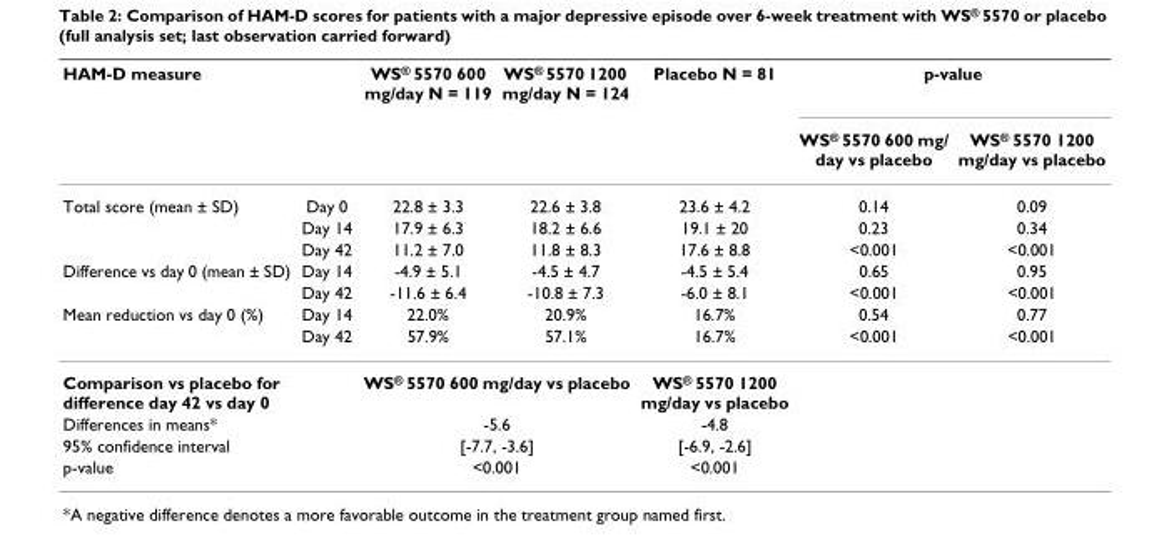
<table><thead><tr><td colspan="2">HAM-D measure</td><td rowspan="2">WS® 5570 600 mg/day N = 119</td><td rowspan="2">WS® 5570 1200 mg/day N = 124</td><td rowspan="2">Placebo N = 81</td><td colspan="2">p-value</td></tr><tr><td></td><td></td><td>WS® 5570 600 mg/ day vs placebo</td><td>WS® 5570 1200 mg/day vs placebo</td></tr></thead><tbody><tr><td rowspan="3">Total score (mean ± SD)</td><td>Day 0</td><td>22.8 ± 3.3</td><td>22.6 ± 3.8</td><td>23.6 ± 4.2</td><td>0.14</td><td>0.09</td></tr><tr><td>Day 14</td><td>17.9 ± 6.3</td><td>18.2 ± 6.6</td><td>19.1 ± 20</td><td>0.23</td><td>0.34</td></tr><tr><td>Day 42</td><td>11.2 ± 7.0</td><td>11.8 ± 8.3</td><td>17.6 ± 8.8</td><td>&lt;0.001</td><td>&lt;0.001</td></tr><tr><td rowspan="2">Difference vs day 0 (mean ± SD)</td><td>Day 14</td><td>-4.9 ± 5.1</td><td>-4.5 ± 4.7</td><td>-4.5 ± 5.4</td><td>0.65</td><td>0.95</td></tr><tr><td>Day 42</td><td>-11.6 ± 6.4</td><td>-10.8 ± 7.3</td><td>-6.0 ± 8.1</td><td>&lt;0.001</td><td>&lt;0.001</td></tr><tr><td rowspan="2">Mean reduction vs day 0 (%)</td><td>Day 14</td><td>22.0%</td><td>20.9%</td><td>16.7%</td><td>0.54</td><td>0.77</td></tr><tr><td>Day 42</td><td>57.9%</td><td>57.1%</td><td>16.7%</td><td>&lt;0.001</td><td>&lt;0.001</td></tr><tr><td colspan="2">Comparison vs placebo for difference day 42 vs day 0</td><td colspan="2">WS® 5570 600 mg/day vs placebo</td><td>WS® 5570 1200 mg/day vs placebo</td><td></td><td></td></tr><tr><td colspan="2">Differences in means*</td><td colspan="2">-5.6</td><td>-4.8</td><td></td><td></td></tr><tr><td colspan="2">95% confidence interval</td><td colspan="2">[-7.7, -3.6]</td><td>[-6.9, -2.6]</td><td></td><td></td></tr><tr><td colspan="2">p-value</td><td colspan="2">&lt;0.001</td><td>&lt;0.001</td><td></td><td></td></tr></tbody></table>